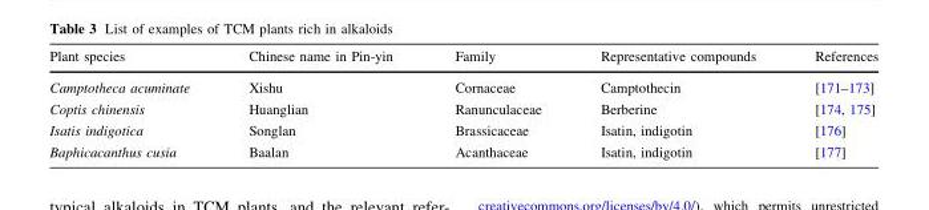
<table><thead><tr><td>Plant species</td><td>Chinese name in Pin-yin</td><td>Family</td><td>Representative compounds</td><td>References</td></tr></thead><tbody><tr><td>Camptotheca acuminate</td><td>Xishu</td><td>Cornaceae</td><td>Camptothecin</td><td>[171–173]</td></tr><tr><td>Coptis chinensis</td><td>Huanglian</td><td>Ranunculaceae</td><td>Berberine</td><td>[174, 175]</td></tr><tr><td>Isatis indigotica</td><td>Songlan</td><td>Brassicaceae</td><td>Isatin, indigotin</td><td>[176]</td></tr><tr><td>Baphicacanthus cusia</td><td>Baalan</td><td>Acanthaceae</td><td>Isatin, indigotin</td><td>[177]</td></tr></tbody></table>